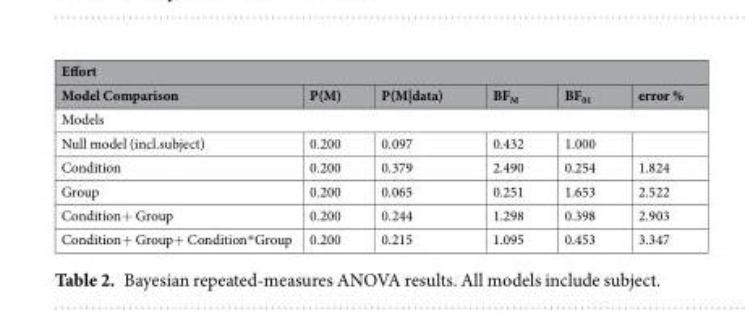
<table><thead><tr><td colspan="6">Effort</td></tr><tr><td>Model Comparison</td><td>P(M)</td><td>P(M|data)</td><td>BF<sub>M</sub></td><td>BF<sub>01</sub></td><td>error %</td></tr></thead><tbody><tr><td colspan="6">Models</td></tr><tr><td>Null model (incl.subject)</td><td>0.200</td><td>0.097</td><td>0.432</td><td>1.000</td><td></td></tr><tr><td>Condition</td><td>0.200</td><td>0.379</td><td>2.490</td><td>0.254</td><td>1.824</td></tr><tr><td>Group</td><td>0.200</td><td>0.065</td><td>0.251</td><td>1.653</td><td>2.522</td></tr><tr><td>Condition+ Group</td><td>0.200</td><td>0.244</td><td>1.298</td><td>0.398</td><td>2.903</td></tr><tr><td>Condition+ Group+ Condition*Group</td><td>0.200</td><td>0.215</td><td>1.095</td><td>0.453</td><td>3.347</td></tr></tbody></table>